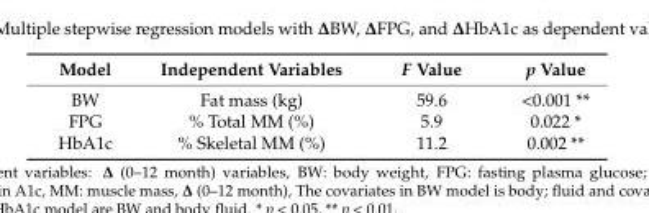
<table><thead><tr><td>Model</td><td>Independent Variables</td><td>F Value</td><td>p Value</td></tr></thead><tbody><tr><td>BW</td><td>Fat mass (kg)</td><td>59.6</td><td>&lt;0.001 **</td></tr><tr><td>FPG</td><td>% Total MM (%)</td><td>5.9</td><td>0.022 *</td></tr><tr><td>HbA1c</td><td>% Skeletal MM (%)</td><td>11.2</td><td>0.002 **</td></tr></tbody></table>